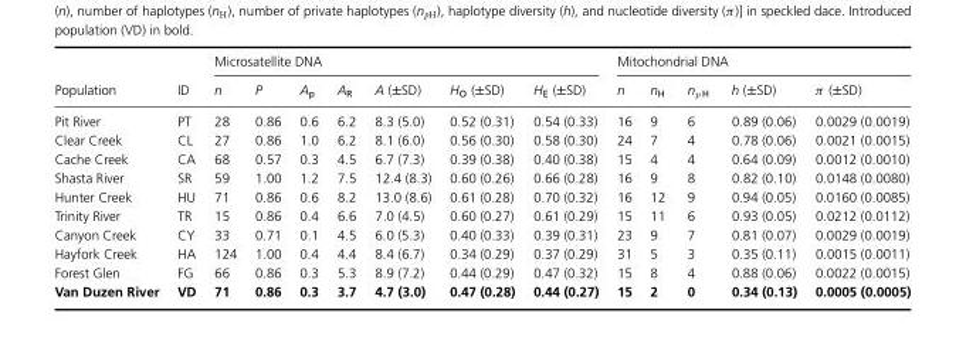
<table><thead><tr><td rowspan="2">Population</td><td rowspan="2">ID</td><td colspan="7">Microsatellite DNA</td><td colspan="5">Mitochondrial DNA</td></tr><tr><td>n</td><td>P</td><td>A<sub>p</sub></td><td>A<sub>R</sub></td><td>A (±SD)</td><td>H<sub>O</sub> (±SD)</td><td>H<sub>E</sub> (±SD)</td><td>n</td><td>n<sub>H</sub></td><td>n<sub>p H</sub></td><td>h (±SD)</td><td>π (±SD)</td></tr></thead><tbody><tr><td>Pit River</td><td>PT</td><td>28</td><td>0.86</td><td>0.6</td><td>6.2</td><td>8.3 (5.0)</td><td>0.52 (0.31)</td><td>0.54 (0.33)</td><td>16</td><td>9</td><td>6</td><td>0.89 (0.06)</td><td>0.0029 (0.0019)</td></tr><tr><td>Clear Creek</td><td>CL</td><td>27</td><td>0.86</td><td>1.0</td><td>6.2</td><td>8.1 (6.0)</td><td>0.56 (0.30)</td><td>0.58 (0.30)</td><td>24</td><td>7</td><td>4</td><td>0.78 (0.06)</td><td>0.0021 (0.0015)</td></tr><tr><td>Cache Creek</td><td>CA</td><td>68</td><td>0.57</td><td>0.3</td><td>4.5</td><td>6.7 (7.3)</td><td>0.39 (0.38)</td><td>0.40 (0.38)</td><td>15</td><td>4</td><td>4</td><td>0.64 (0.09)</td><td>0.0012 (0.0010)</td></tr><tr><td>Shasta River</td><td>SR</td><td>59</td><td>1.00</td><td>1.2</td><td>7.5</td><td>12.4 (8.3)</td><td>0.60 (0.26)</td><td>0.66 (0.28)</td><td>16</td><td>9</td><td>8</td><td>0.82 (0.10)</td><td>0.0148 (0.0080)</td></tr><tr><td>Hunter Creek</td><td>HU</td><td>71</td><td>0.86</td><td>0.6</td><td>8.2</td><td>13.0 (8.6)</td><td>0.61 (0.28)</td><td>0.70 (0.32)</td><td>16</td><td>12</td><td>9</td><td>0.94 (0.05)</td><td>0.0160 (0.0085)</td></tr><tr><td>Trinity River</td><td>TR</td><td>15</td><td>0.86</td><td>0.4</td><td>6.6</td><td>7.0 (4.5)</td><td>0.60 (0.27)</td><td>0.61 (0.29)</td><td>15</td><td>11</td><td>6</td><td>0.93 (0.05)</td><td>0.0212 (0.0112)</td></tr><tr><td>Canyon Creek</td><td>CY</td><td>33</td><td>0.71</td><td>0.1</td><td>4.5</td><td>6.0 (5.3)</td><td>0.40 (0.33)</td><td>0.39 (0.31)</td><td>23</td><td>9</td><td>7</td><td>0.81 (0.07)</td><td>0.0029 (0.0019)</td></tr><tr><td>Hayfork Creek</td><td>HA</td><td>124</td><td>1.00</td><td>0.4</td><td>4.4</td><td>8.4 (6.7)</td><td>0.34 (0.29)</td><td>0.37 (0.29)</td><td>31</td><td>5</td><td>3</td><td>0.35 (0.11)</td><td>0.0015 (0.0011)</td></tr><tr><td>Forest Glen</td><td>FG</td><td>66</td><td>0.86</td><td>0.3</td><td>5.3</td><td>8.9 (7.2)</td><td>0.44 (0.29)</td><td>0.47 (0.32)</td><td>15</td><td>8</td><td>4</td><td>0.88 (0.06)</td><td>0.0022 (0.0015)</td></tr><tr><td>Van Duzen River</td><td>VD</td><td>71</td><td>0.86</td><td>0.3</td><td>3.7</td><td>4.7 (3.0)</td><td>0.47 (0.28)</td><td>0.44 (0.27)</td><td>15</td><td>2</td><td>0</td><td>0.34 (0.13)</td><td>0.0005 (0.0005)</td></tr></tbody></table>